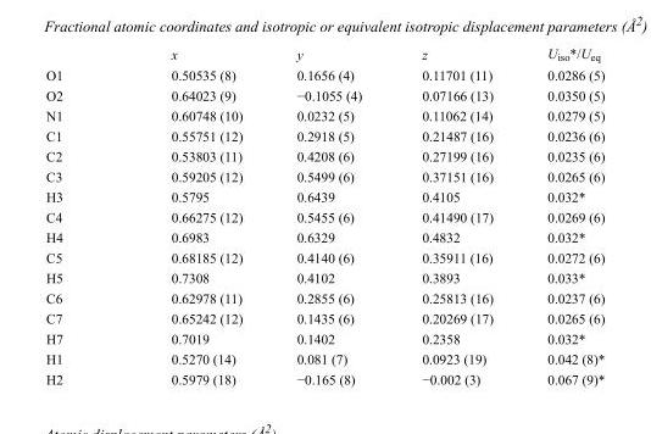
<table><thead><tr><td></td><td>x</td><td>y</td><td>z</td><td>U<sub>iso</sub>*/U<sub>eq</sub></td></tr></thead><tbody><tr><td>O1</td><td>0.50535 (8)</td><td>0.1656 (4)</td><td>0.11701 (11)</td><td>0.0286 (5)</td></tr><tr><td>O2</td><td>0.64023 (9)</td><td>−0.1055 (4)</td><td>0.07166 (13)</td><td>0.0350 (5)</td></tr><tr><td>N1</td><td>0.60748 (10)</td><td>0.0232 (5)</td><td>0.11062 (14)</td><td>0.0279 (5)</td></tr><tr><td>C1</td><td>0.55751 (12)</td><td>0.2918 (5)</td><td>0.21487 (16)</td><td>0.0236 (6)</td></tr><tr><td>C2</td><td>0.53803 (11)</td><td>0.4208 (6)</td><td>0.27199 (16)</td><td>0.0235 (6)</td></tr><tr><td>C3</td><td>0.59205 (12)</td><td>0.5499 (6)</td><td>0.37151 (16)</td><td>0.0265 (6)</td></tr><tr><td>H3</td><td>0.5795</td><td>0.6439</td><td>0.4105</td><td>0.032*</td></tr><tr><td>C4</td><td>0.66275 (12)</td><td>0.5455 (6)</td><td>0.41490 (17)</td><td>0.0269 (6)</td></tr><tr><td>H4</td><td>0.6983</td><td>0.6329</td><td>0.4832</td><td>0.032*</td></tr><tr><td>C5</td><td>0.68185 (12)</td><td>0.4140 (6)</td><td>0.35911 (16)</td><td>0.0272 (6)</td></tr><tr><td>H5</td><td>0.7308</td><td>0.4102</td><td>0.3893</td><td>0.033*</td></tr><tr><td>C6</td><td>0.62978 (11)</td><td>0.2855 (6)</td><td>0.25813 (16)</td><td>0.0237 (6)</td></tr><tr><td>C7</td><td>0.65242 (12)</td><td>0.1435 (6)</td><td>0.20269 (17)</td><td>0.0265 (6)</td></tr><tr><td>H7</td><td>0.7019</td><td>0.1402</td><td>0.2358</td><td>0.032*</td></tr><tr><td>H1</td><td>0.5270 (14)</td><td>0.081 (7)</td><td>0.0923 (19)</td><td>0.042 (8)*</td></tr><tr><td>H2</td><td>0.5979 (18)</td><td>−0.165 (8)</td><td>−0.002 (3)</td><td>0.067 (9)*</td></tr></tbody></table>